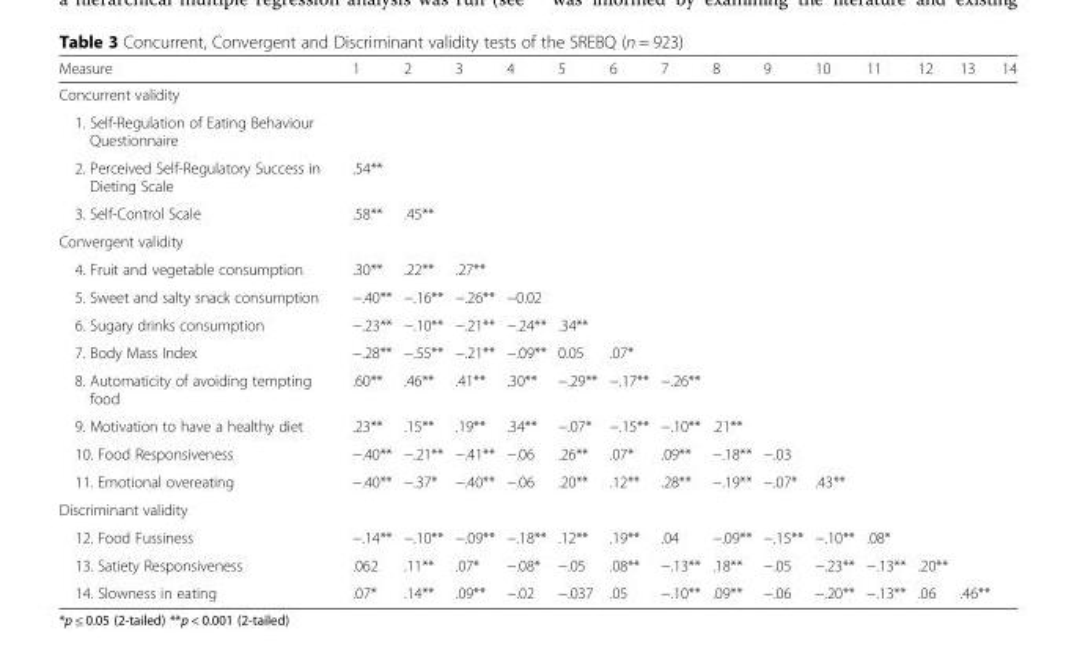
<table><thead><tr><td>Measure</td><td>1</td><td>2</td><td>3</td><td>4</td><td>5</td><td>6</td><td>7</td><td>8</td><td>9</td><td>10</td><td>11</td><td>12</td><td>13</td><td>14</td></tr></thead><tbody><tr><td colspan="15">Concurrent validity</td></tr><tr><td colspan="15">1. Self-Regulation of Eating Behaviour Questionnaire</td></tr><tr><td>2. Perceived Self-Regulatory Success in Dieting Scale</td><td>.54**</td><td></td><td></td><td></td><td></td><td></td><td></td><td></td><td></td><td></td><td></td><td></td><td></td><td></td></tr><tr><td>3. Self-Control Scale</td><td>.58**</td><td>.45**</td><td></td><td></td><td></td><td></td><td></td><td></td><td></td><td></td><td></td><td></td><td></td><td></td></tr><tr><td colspan="15">Convergent validity</td></tr><tr><td>4. Fruit and vegetable consumption</td><td>.30**</td><td>.22**</td><td>.27**</td><td></td><td></td><td></td><td></td><td></td><td></td><td></td><td></td><td></td><td></td><td></td></tr><tr><td>5. Sweet and salty snack consumption</td><td>−.40**</td><td>−.16**</td><td>−.26**</td><td>−0.02</td><td></td><td></td><td></td><td></td><td></td><td></td><td></td><td></td><td></td><td></td></tr><tr><td>6. Sugary drinks consumption</td><td>−.23**</td><td>−.10**</td><td>−.21**</td><td>−.24**</td><td>.34**</td><td></td><td></td><td></td><td></td><td></td><td></td><td></td><td></td><td></td></tr><tr><td>7. Body Mass Index</td><td>−.28**</td><td>−.55**</td><td>−.21**</td><td>−.09**</td><td>0.05</td><td>.07*</td><td></td><td></td><td></td><td></td><td></td><td></td><td></td><td></td></tr><tr><td>8. Automaticity of avoiding tempting food</td><td>.60**</td><td>.46**</td><td>.41**</td><td>.30**</td><td>−.29**</td><td>−.17**</td><td>−.26**</td><td></td><td></td><td></td><td></td><td></td><td></td><td></td></tr><tr><td>9. Motivation to have a healthy diet</td><td>.23**</td><td>.15**</td><td>.19**</td><td>.34**</td><td>−.07*</td><td>−.15**</td><td>−.10**</td><td>.21**</td><td></td><td></td><td></td><td></td><td></td><td></td></tr><tr><td>10. Food Responsiveness</td><td>−.40**</td><td>−.21**</td><td>−.41**</td><td>−.06</td><td>.26**</td><td>.07*</td><td>.09**</td><td>−.18**</td><td>−.03</td><td></td><td></td><td></td><td></td><td></td></tr><tr><td>11. Emotional overeating</td><td>−.40**</td><td>−.37*</td><td>−.40**</td><td>−.06</td><td>.20**</td><td>.12**</td><td>.28**</td><td>−.19**</td><td>−.07*</td><td>.43**</td><td></td><td></td><td></td><td></td></tr><tr><td colspan="15">Discriminant validity</td></tr><tr><td>12. Food Fussiness</td><td>−.14**</td><td>−.10**</td><td>−.09**</td><td>−.18**</td><td>.12**</td><td>.19**</td><td>.04</td><td>−.09**</td><td>−.15**</td><td>−.10**</td><td>.08*</td><td></td><td></td><td></td></tr><tr><td>13. Satiety Responsiveness</td><td>.062</td><td>.11**</td><td>.07*</td><td>−.08*</td><td>−.05</td><td>.08**</td><td>−.13**</td><td>.18**</td><td>−.05</td><td>−.23**</td><td>−.13**</td><td>.20**</td><td></td><td></td></tr><tr><td>14. Slowness in eating</td><td>.07*</td><td>.14**</td><td>.09**</td><td>−.02</td><td>−.037</td><td>.05</td><td>−.10**</td><td>.09**</td><td>−.06</td><td>−.20**</td><td>−.13**</td><td>.06</td><td>.46**</td><td></td></tr></tbody></table>